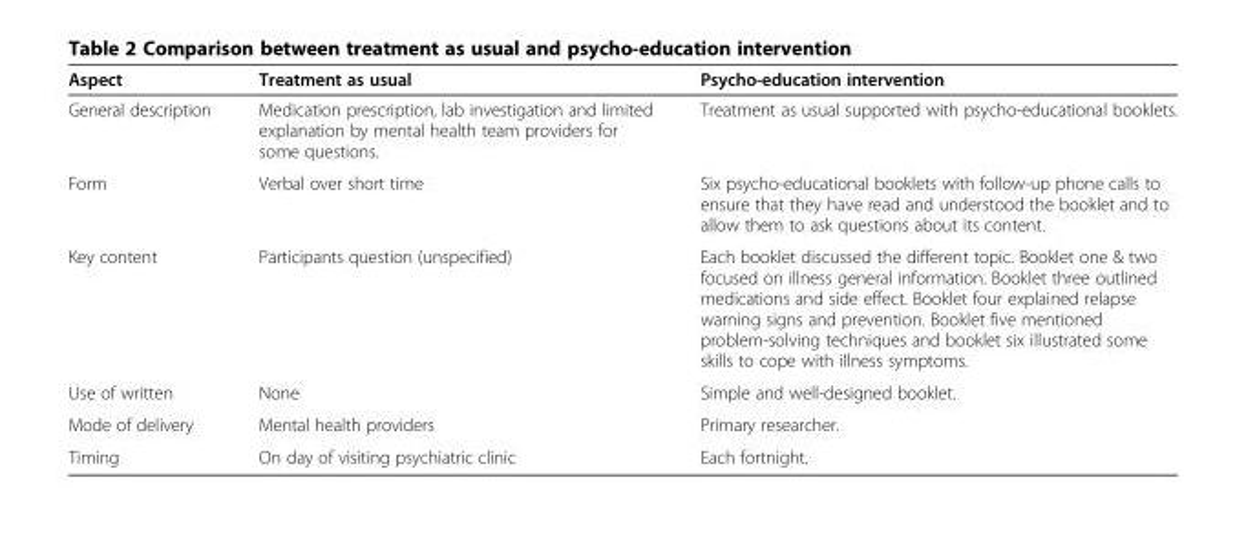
<table><thead><tr><td>Aspect</td><td>Treatment as usual</td><td>Psycho-education intervention</td></tr></thead><tbody><tr><td>General description</td><td>Medication prescription, lab investigation and limited explanation by mental health team providers for some questions.</td><td>Treatment as usual supported with psycho-educational booklets.</td></tr><tr><td>Form</td><td>Verbal over short time</td><td>Six psycho-educational booklets with follow-up phone calls to ensure that they have read and understood the booklet and to allow them to ask questions about its content.</td></tr><tr><td>Key content</td><td>Participants question (unspecified)</td><td>Each booklet discussed the different topic. Booklet one &amp; two focused on illness general information. Booklet three outlined medications and side effect. Booklet four explained relapse warning signs and prevention. Booklet five mentioned problem-solving techniques and booklet six illustrated some skills to cope with illness symptoms.</td></tr><tr><td>Use of written</td><td>None</td><td>Simple and well-designed booklet.</td></tr><tr><td>Mode of delivery</td><td>Mental health providers</td><td>Primary researcher.</td></tr><tr><td>Timing</td><td>On day of visiting psychiatric clinic</td><td>Each fortnight.</td></tr></tbody></table>